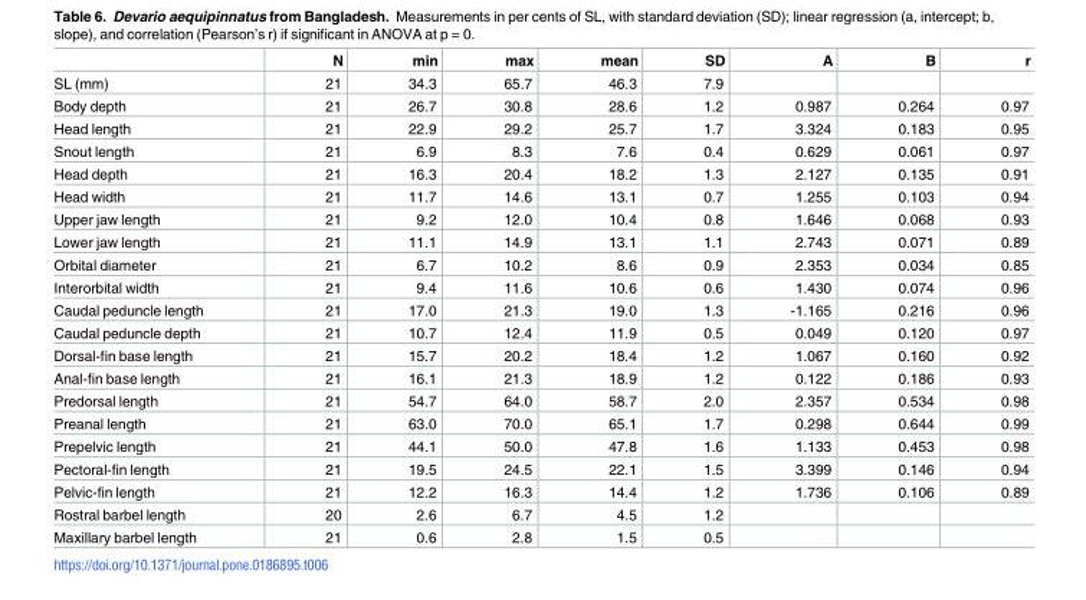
<table><thead><tr><td></td><td>N</td><td>min</td><td>max</td><td>mean</td><td>SD</td><td>A</td><td>B</td><td>r</td></tr></thead><tbody><tr><td>SL (mm)</td><td>21</td><td>34.3</td><td>65.7</td><td>46.3</td><td>7.9</td><td></td><td></td><td></td></tr><tr><td>Body depth</td><td>21</td><td>26.7</td><td>30.8</td><td>28.6</td><td>1.2</td><td>0.987</td><td>0.264</td><td>0.97</td></tr><tr><td>Head length</td><td>21</td><td>22.9</td><td>29.2</td><td>25.7</td><td>1.7</td><td>3.324</td><td>0.183</td><td>0.95</td></tr><tr><td>Snout length</td><td>21</td><td>6.9</td><td>8.3</td><td>7.6</td><td>0.4</td><td>0.629</td><td>0.061</td><td>0.97</td></tr><tr><td>Head depth</td><td>21</td><td>16.3</td><td>20.4</td><td>18.2</td><td>1.3</td><td>2.127</td><td>0.135</td><td>0.91</td></tr><tr><td>Head width</td><td>21</td><td>11.7</td><td>14.6</td><td>13.1</td><td>0.7</td><td>1.255</td><td>0.103</td><td>0.94</td></tr><tr><td>Upper jaw length</td><td>21</td><td>9.2</td><td>12.0</td><td>10.4</td><td>0.8</td><td>1.646</td><td>0.068</td><td>0.93</td></tr><tr><td>Lower jaw length</td><td>21</td><td>11.1</td><td>14.9</td><td>13.1</td><td>1.1</td><td>2.743</td><td>0.071</td><td>0.89</td></tr><tr><td>Orbital diameter</td><td>21</td><td>6.7</td><td>10.2</td><td>8.6</td><td>0.9</td><td>2.353</td><td>0.034</td><td>0.85</td></tr><tr><td>Interorbital width</td><td>21</td><td>9.4</td><td>11.6</td><td>10.6</td><td>0.6</td><td>1.430</td><td>0.074</td><td>0.96</td></tr><tr><td>Caudal peduncle length</td><td>21</td><td>17.0</td><td>21.3</td><td>19.0</td><td>1.3</td><td>-1.165</td><td>0.216</td><td>0.96</td></tr><tr><td>Caudal peduncle depth</td><td>21</td><td>10.7</td><td>12.4</td><td>11.9</td><td>0.5</td><td>0.049</td><td>0.120</td><td>0.97</td></tr><tr><td>Dorsal-fin base length</td><td>21</td><td>15.7</td><td>20.2</td><td>18.4</td><td>1.2</td><td>1.067</td><td>0.160</td><td>0.92</td></tr><tr><td>Anal-fin base length</td><td>21</td><td>16.1</td><td>21.3</td><td>18.9</td><td>1.2</td><td>0.122</td><td>0.186</td><td>0.93</td></tr><tr><td>Predorsal length</td><td>21</td><td>54.7</td><td>64.0</td><td>58.7</td><td>2.0</td><td>2.357</td><td>0.534</td><td>0.98</td></tr><tr><td>Preanal length</td><td>21</td><td>63.0</td><td>70.0</td><td>65.1</td><td>1.7</td><td>0.298</td><td>0.644</td><td>0.99</td></tr><tr><td>Prepelvic length</td><td>21</td><td>44.1</td><td>50.0</td><td>47.8</td><td>1.6</td><td>1.133</td><td>0.453</td><td>0.98</td></tr><tr><td>Pectoral-fin length</td><td>21</td><td>19.5</td><td>24.5</td><td>22.1</td><td>1.5</td><td>3.399</td><td>0.146</td><td>0.94</td></tr><tr><td>Pelvic-fin length</td><td>21</td><td>12.2</td><td>16.3</td><td>14.4</td><td>1.2</td><td>1.736</td><td>0.106</td><td>0.89</td></tr><tr><td>Rostral barbel length</td><td>20</td><td>2.6</td><td>6.7</td><td>4.5</td><td>1.2</td><td></td><td></td><td></td></tr><tr><td>Maxillary barbel length</td><td>21</td><td>0.6</td><td>2.8</td><td>1.5</td><td>0.5</td><td></td><td></td><td></td></tr></tbody></table>